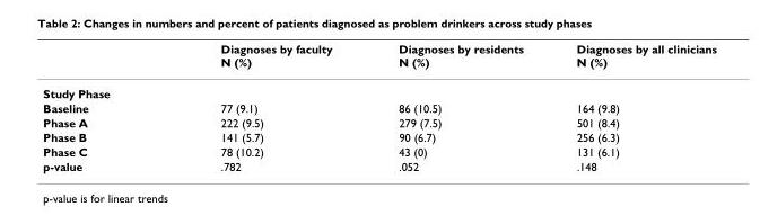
<table><thead><tr><td></td><td>Diagnoses by faculty N (%)</td><td>Diagnoses by residents N (%)</td><td>Diagnoses by all clinicians N (%)</td></tr></thead><tbody><tr><td colspan="4">Study Phase</td></tr><tr><td>Baseline</td><td>77 (9.1)</td><td>86 (10.5)</td><td>164 (9.8)</td></tr><tr><td>Phase A</td><td>222 (9.5)</td><td>279 (7.5)</td><td>501 (8.4)</td></tr><tr><td>Phase B</td><td>141 (5.7)</td><td>90 (6.7)</td><td>256 (6.3)</td></tr><tr><td>Phase C</td><td>78 (10.2)</td><td>43 (0)</td><td>131 (6.1)</td></tr><tr><td>p-value</td><td>.782</td><td>.052</td><td>.148</td></tr></tbody></table>